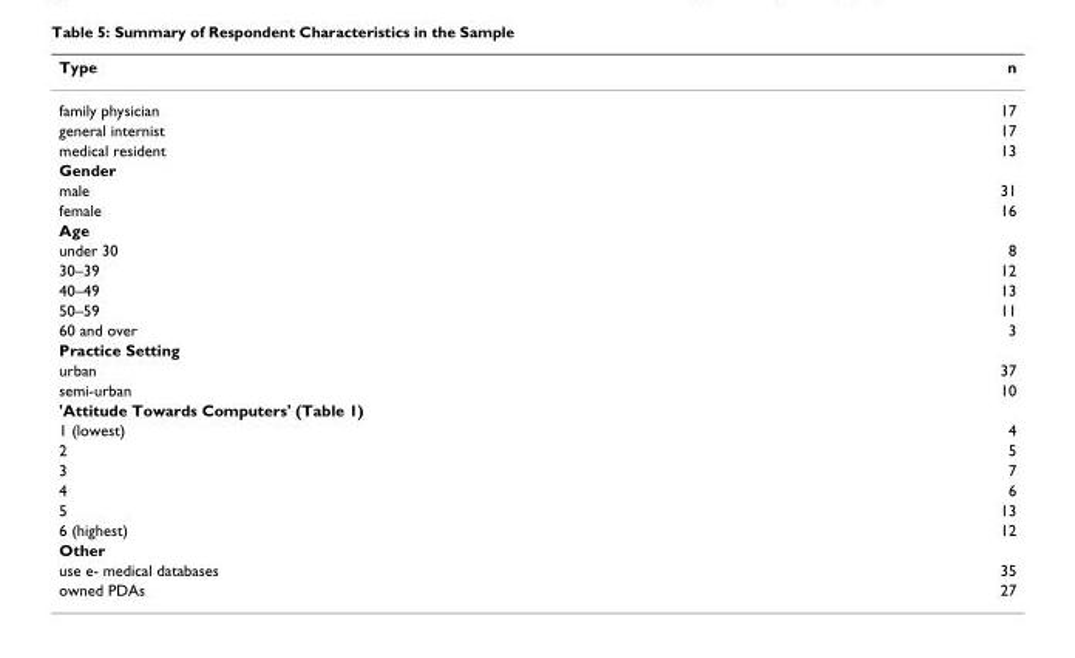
<table><thead><tr><td>Type</td><td>n</td></tr></thead><tbody><tr><td>family physician</td><td>17</td></tr><tr><td>general internist</td><td>17</td></tr><tr><td>medical resident</td><td>13</td></tr><tr><td colspan="2">Gender</td></tr><tr><td>male</td><td>31</td></tr><tr><td>female</td><td>16</td></tr><tr><td colspan="2">Age</td></tr><tr><td>under 30</td><td>8</td></tr><tr><td>30–39</td><td>12</td></tr><tr><td>40–49</td><td>13</td></tr><tr><td>50–59</td><td>11</td></tr><tr><td>60 and over</td><td>3</td></tr><tr><td colspan="2">Practice Setting</td></tr><tr><td>urban</td><td>37</td></tr><tr><td>semi-urban</td><td>10</td></tr><tr><td colspan="2">&#x27;Attitude Towards Computers&#x27; (Table 1)</td></tr><tr><td>1 (lowest)</td><td>4</td></tr><tr><td>2</td><td>5</td></tr><tr><td>3</td><td>7</td></tr><tr><td>4</td><td>6</td></tr><tr><td>5</td><td>13</td></tr><tr><td>6 (highest)</td><td>12</td></tr><tr><td colspan="2">Other</td></tr><tr><td>use e- medical databases</td><td>35</td></tr><tr><td>owned PDAs</td><td>27</td></tr></tbody></table>